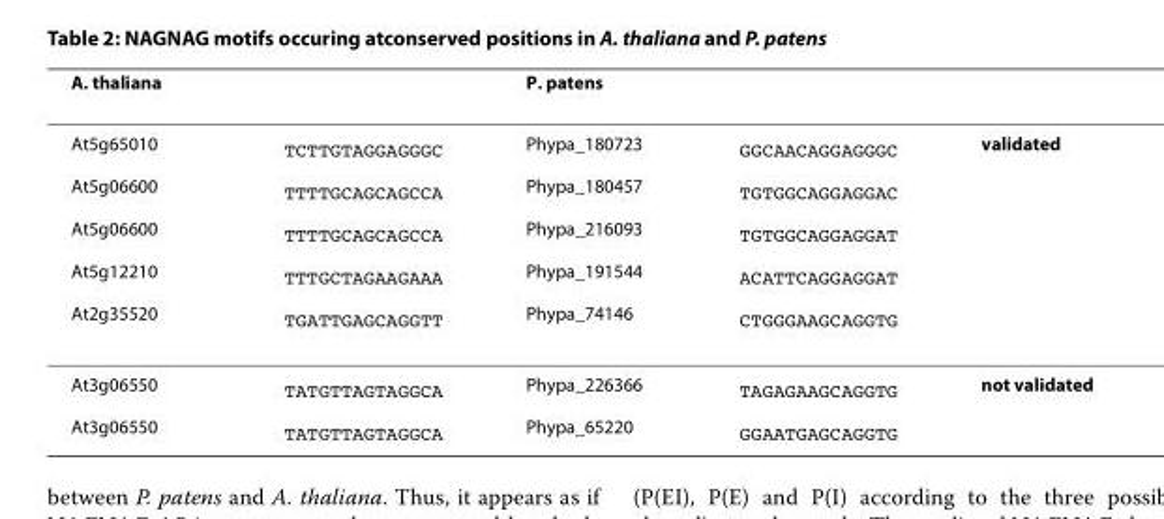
<table><thead><tr><td>A. thaliana</td><td></td><td>P. patens</td><td></td><td></td></tr></thead><tbody><tr><td>At5g65010</td><td>TCTTGTAGGAGGGC</td><td>Phypa_180723</td><td>GGCAACAGGAGGGC</td><td>validated</td></tr><tr><td>At5g06600</td><td>TTTTGCAGCAGCCA</td><td>Phypa_180457</td><td>TGTGGCAGGAGGAC</td><td></td></tr><tr><td>At5g06600</td><td>TTTTGCAGCAGCCA</td><td>Phypa_216093</td><td>TGTGGCAGGAGGAT</td><td></td></tr><tr><td>At5g12210</td><td>TTTGCTAGAAGAAA</td><td>Phypa_191544</td><td>ACATTCAGGAGGAT</td><td></td></tr><tr><td>At2g35520</td><td>TGATTGAGCAGGTT</td><td>Phypa_74146</td><td>CTGGGAAGCAGGTG</td><td></td></tr><tr><td>At3g06550</td><td>TATGTTAGTAGGCA</td><td>Phypa_226366</td><td>TAGAGAAGCAGGTG</td><td>not validated</td></tr><tr><td>At3g06550</td><td>TATGTTAGTAGGCA</td><td>Phypa_65220</td><td>GGAATGAGCAGGTG</td><td></td></tr></tbody></table>